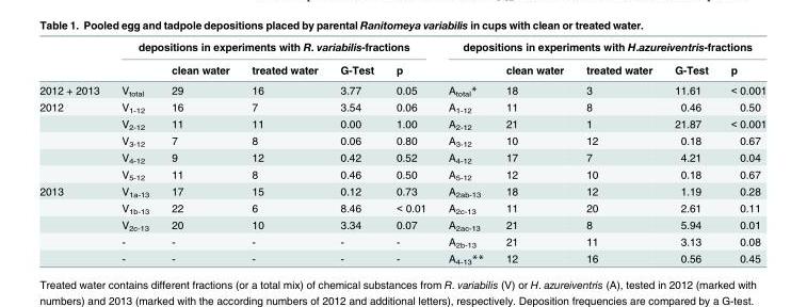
<table><thead><tr><td rowspan="2"></td><td colspan="5">depositions in experiments with R. variabilis-fractions</td><td colspan="5">depositions in experiments with H.azureiventris-fractions</td></tr><tr><td></td><td>clean water</td><td>treated water</td><td>G-Test</td><td>p</td><td></td><td>clean water</td><td>treated water</td><td>G-Test</td><td>p</td></tr></thead><tbody><tr><td>2012 + 2013</td><td>V<sub>total</sub></td><td>29</td><td>16</td><td>3.77</td><td>0.05</td><td>A<sub>total</sub>*</td><td>18</td><td>3</td><td>11.61</td><td>&lt; 0.001</td></tr><tr><td rowspan="5">2012</td><td>V<sub>1-12</sub></td><td>16</td><td>7</td><td>3.54</td><td>0.06</td><td>A<sub>1-12</sub></td><td>11</td><td>8</td><td>0.46</td><td>0.50</td></tr><tr><td>V<sub>2-12</sub></td><td>11</td><td>11</td><td>0.00</td><td>1.00</td><td>A<sub>2-12</sub></td><td>21</td><td>1</td><td>21.87</td><td>&lt; 0.001</td></tr><tr><td>V<sub>3-12</sub></td><td>7</td><td>8</td><td>0.06</td><td>0.80</td><td>A<sub>3-12</sub></td><td>10</td><td>12</td><td>0.18</td><td>0.67</td></tr><tr><td>V<sub>4-12</sub></td><td>9</td><td>12</td><td>0.42</td><td>0.52</td><td>A<sub>4-12</sub></td><td>17</td><td>7</td><td>4.21</td><td>0.04</td></tr><tr><td>V<sub>5-12</sub></td><td>11</td><td>8</td><td>0.46</td><td>0.50</td><td>A<sub>5-12</sub></td><td>12</td><td>10</td><td>0.18</td><td>0.67</td></tr><tr><td rowspan="5">2013</td><td>V<sub>1a-13</sub></td><td>17</td><td>15</td><td>0.12</td><td>0.73</td><td>A<sub>2ab-13</sub></td><td>18</td><td>12</td><td>1.19</td><td>0.28</td></tr><tr><td>V<sub>1b-13</sub></td><td>22</td><td>6</td><td>8.46</td><td>&lt; 0.01</td><td>A<sub>2c-13</sub></td><td>11</td><td>20</td><td>2.61</td><td>0.11</td></tr><tr><td>V<sub>2c-13</sub></td><td>20</td><td>10</td><td>3.34</td><td>0.07</td><td>A<sub>2ac-13</sub></td><td>21</td><td>8</td><td>5.94</td><td>0.01</td></tr><tr><td>-</td><td>-</td><td>-</td><td>-</td><td>-</td><td>A<sub>2b-13</sub></td><td>21</td><td>11</td><td>3.13</td><td>0.08</td></tr><tr><td>-</td><td>-</td><td>-</td><td>-</td><td>-</td><td>A<sub>4-13</sub>**</td><td>12</td><td>16</td><td>0.56</td><td>0.45</td></tr></tbody></table>